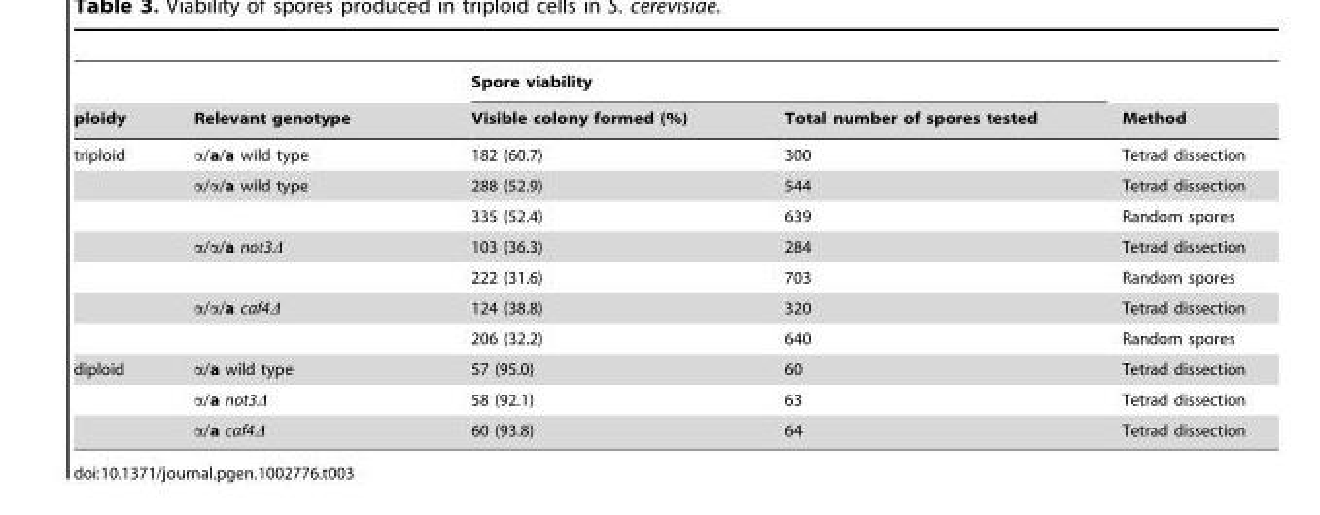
<table><thead><tr><td rowspan="2">ploidy</td><td rowspan="2">Relevant genotype</td><td colspan="2">Spore viability</td><td rowspan="2">Method</td></tr><tr><td>Visible colony formed (%)</td><td>Total number of spores tested</td></tr></thead><tbody><tr><td rowspan="7">triploid</td><td>α/a/a wild type</td><td>182 (60.7)</td><td>300</td><td>Tetrad dissection</td></tr><tr><td>α/α/a wild type</td><td>288 (52.9)</td><td>544</td><td>Tetrad dissection</td></tr><tr><td></td><td>335 (52.4)</td><td>639</td><td>Random spores</td></tr><tr><td>α/α/a not3Δ</td><td>103 (36.3)</td><td>284</td><td>Tetrad dissection</td></tr><tr><td></td><td>222 (31.6)</td><td>703</td><td>Random spores</td></tr><tr><td>α/α/a caf4Δ</td><td>124 (38.8)</td><td>320</td><td>Tetrad dissection</td></tr><tr><td></td><td>206 (32.2)</td><td>640</td><td>Random spores</td></tr><tr><td rowspan="3">diploid</td><td>α/a wild type</td><td>57 (95.0)</td><td>60</td><td>Tetrad dissection</td></tr><tr><td>α/a not3Δ</td><td>58 (92.1)</td><td>63</td><td>Tetrad dissection</td></tr><tr><td>α/a caf4Δ</td><td>60 (93.8)</td><td>64</td><td>Tetrad dissection</td></tr></tbody></table>